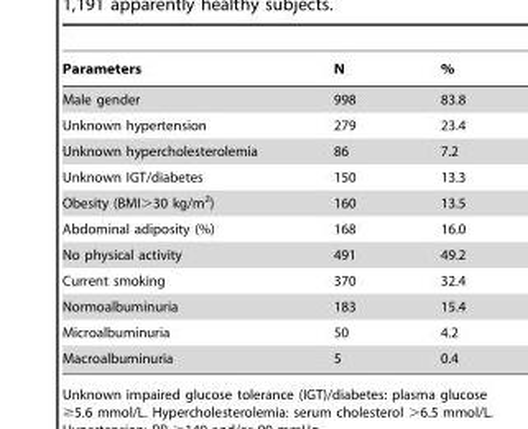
<table><thead><tr><td>Parameters</td><td>N</td><td>%</td></tr></thead><tbody><tr><td>Male gender</td><td>998</td><td>83.8</td></tr><tr><td>Unknown hypertension</td><td>279</td><td>23.4</td></tr><tr><td>Unknown hypercholesterolemia</td><td>86</td><td>7.2</td></tr><tr><td>Unknown IGT/diabetes</td><td>150</td><td>13.3</td></tr><tr><td>Obesity (BMI&gt;30 kg/m<sup>2</sup>)</td><td>160</td><td>13.5</td></tr><tr><td>Abdominal adiposity (%)</td><td>168</td><td>16.0</td></tr><tr><td>No physical activity</td><td>491</td><td>49.2</td></tr><tr><td>Current smoking</td><td>370</td><td>32.4</td></tr><tr><td>Normoalbuminuria</td><td>183</td><td>15.4</td></tr><tr><td>Microalbuminuria</td><td>50</td><td>4.2</td></tr><tr><td>Macroalbuminuria</td><td>5</td><td>0.4</td></tr></tbody></table>